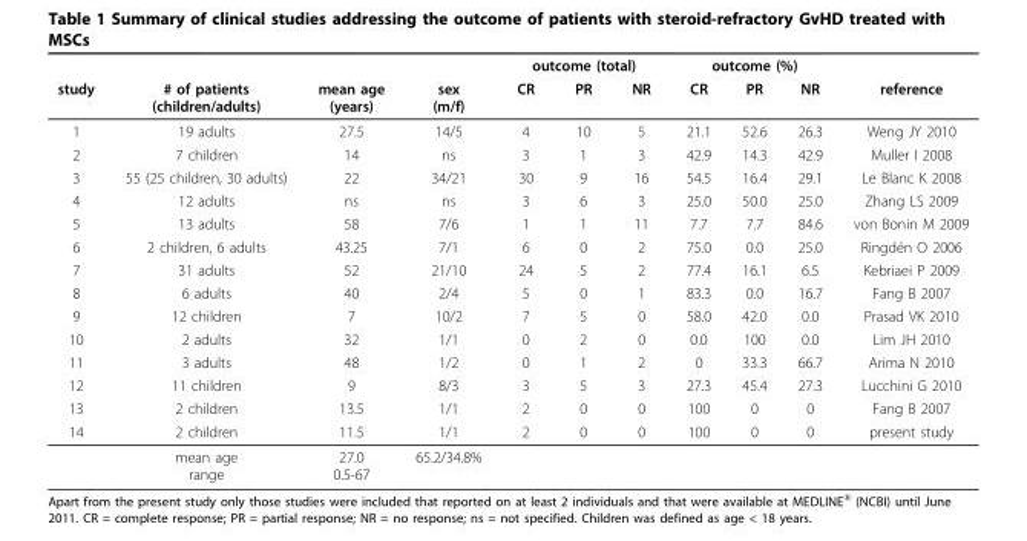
<table><thead><tr><td rowspan="2">study</td><td rowspan="2"># of patients (children/adults)</td><td rowspan="2">mean age (years)</td><td rowspan="2">sex (m/f)</td><td colspan="3">outcome (total)</td><td colspan="3">outcome (%)</td><td rowspan="2">reference</td></tr><tr><td>CR</td><td>PR</td><td>NR</td><td>CR</td><td>PR</td><td>NR</td></tr></thead><tbody><tr><td>1</td><td>19 adults</td><td>27.5</td><td>14/5</td><td>4</td><td>10</td><td>5</td><td>21.1</td><td>52.6</td><td>26.3</td><td>Weng JY 2010</td></tr><tr><td>2</td><td>7 children</td><td>14</td><td>ns</td><td>3</td><td>1</td><td>3</td><td>42.9</td><td>14.3</td><td>42.9</td><td>Muller I 2008</td></tr><tr><td>3</td><td>55 (25 children, 30 adults)</td><td>22</td><td>34/21</td><td>30</td><td>9</td><td>16</td><td>54.5</td><td>16.4</td><td>29.1</td><td>Le Blanc K 2008</td></tr><tr><td>4</td><td>12 adults</td><td>ns</td><td>ns</td><td>3</td><td>6</td><td>3</td><td>25.0</td><td>50.0</td><td>25.0</td><td>Zhang LS 2009</td></tr><tr><td>5</td><td>13 adults</td><td>58</td><td>7/6</td><td>1</td><td>1</td><td>11</td><td>7.7</td><td>7.7</td><td>84.6</td><td>von Bonin M 2009</td></tr><tr><td>6</td><td>2 children, 6 adults</td><td>43.25</td><td>7/1</td><td>6</td><td>0</td><td>2</td><td>75.0</td><td>0.0</td><td>25.0</td><td>Ringdén O 2006</td></tr><tr><td>7</td><td>31 adults</td><td>52</td><td>21/10</td><td>24</td><td>5</td><td>2</td><td>77.4</td><td>16.1</td><td>6.5</td><td>Kebriaei P 2009</td></tr><tr><td>8</td><td>6 adults</td><td>40</td><td>2/4</td><td>5</td><td>0</td><td>1</td><td>83.3</td><td>0.0</td><td>16.7</td><td>Fang B 2007</td></tr><tr><td>9</td><td>12 children</td><td>7</td><td>10/2</td><td>7</td><td>5</td><td>0</td><td>58.0</td><td>42.0</td><td>0.0</td><td>Prasad VK 2010</td></tr><tr><td>10</td><td>2 adults</td><td>32</td><td>1/1</td><td>0</td><td>2</td><td>0</td><td>0.0</td><td>100</td><td>0.0</td><td>Lim JH 2010</td></tr><tr><td>11</td><td>3 adults</td><td>48</td><td>1/2</td><td>0</td><td>1</td><td>2</td><td>0</td><td>33.3</td><td>66.7</td><td>Arima N 2010</td></tr><tr><td>12</td><td>11 children</td><td>9</td><td>8/3</td><td>3</td><td>5</td><td>3</td><td>27.3</td><td>45.4</td><td>27.3</td><td>Lucchini G 2010</td></tr><tr><td>13</td><td>2 children</td><td>13.5</td><td>1/1</td><td>2</td><td>0</td><td>0</td><td>100</td><td>0</td><td>0</td><td>Fang B 2007</td></tr><tr><td rowspan="2">14</td><td>2 children</td><td>11.5</td><td>1/1</td><td>2</td><td>0</td><td>0</td><td>100</td><td>0</td><td>0</td><td>present study</td></tr><tr><td>mean age range</td><td>27.0 0.5-67</td><td>65.2/34.8%</td><td></td><td></td><td></td><td></td><td></td><td></td><td></td></tr></tbody></table>